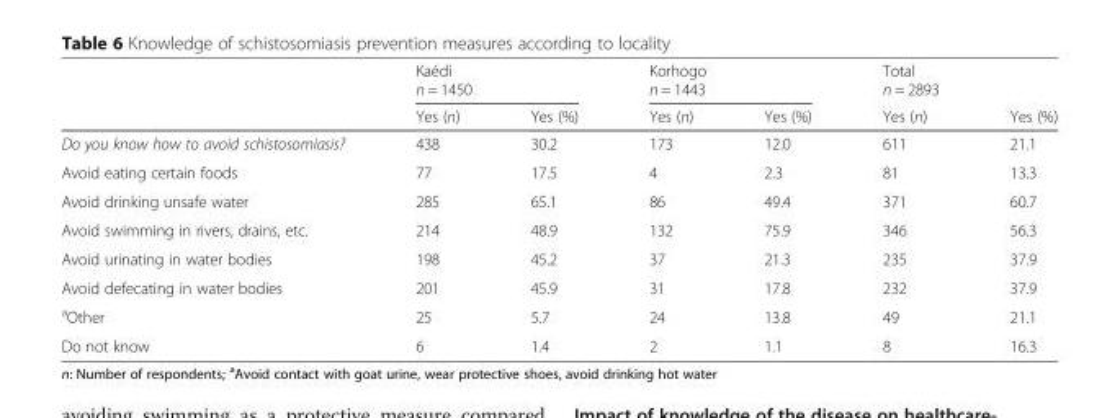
<table><thead><tr><td rowspan="2"></td><td colspan="2">Kaédi n = 1450</td><td colspan="2">Korhogo n = 1443</td><td rowspan="2">Total n = 2893 Yes (n)</td><td rowspan="2">Yes (%)</td></tr><tr><td>Yes (n)</td><td>Yes (%)</td><td>Yes (n)</td><td>Yes (%)</td></tr></thead><tbody><tr><td>Do you know how to avoid schistosomiasis?</td><td>438</td><td>30.2</td><td>173</td><td>12.0</td><td>611</td><td>21.1</td></tr><tr><td>Avoid eating certain foods</td><td>77</td><td>17.5</td><td>4</td><td>2.3</td><td>81</td><td>13.3</td></tr><tr><td>Avoid drinking unsafe water</td><td>285</td><td>65.1</td><td>86</td><td>49.4</td><td>371</td><td>60.7</td></tr><tr><td>Avoid swimming in rivers, drains, etc.</td><td>214</td><td>48.9</td><td>132</td><td>75.9</td><td>346</td><td>56.3</td></tr><tr><td>Avoid urinating in water bodies</td><td>198</td><td>45.2</td><td>37</td><td>21.3</td><td>235</td><td>37.9</td></tr><tr><td>Avoid defecating in water bodies</td><td>201</td><td>45.9</td><td>31</td><td>17.8</td><td>232</td><td>37.9</td></tr><tr><td><sup>a</sup>Other</td><td>25</td><td>5.7</td><td>24</td><td>13.8</td><td>49</td><td>21.1</td></tr><tr><td>Do not know</td><td>6</td><td>1.4</td><td>2</td><td>1.1</td><td>8</td><td>16.3</td></tr></tbody></table>